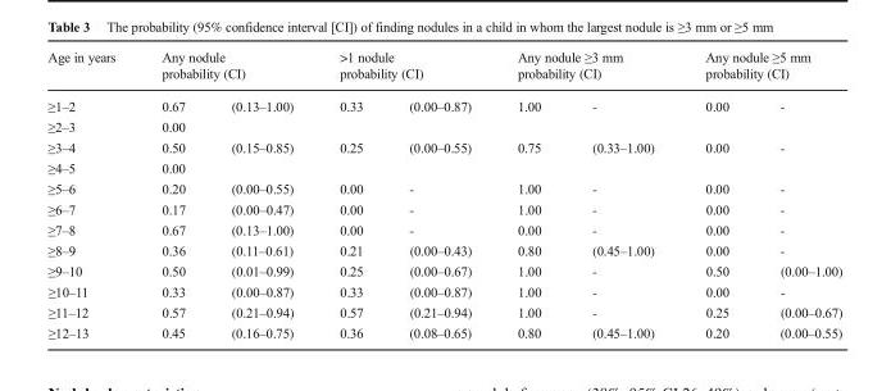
<table><thead><tr><td rowspan="2">Age in years ≥1–2</td><td colspan="2">Any nodule probability (CI)</td><td colspan="2">&gt;1 nodule probability (CI)</td><td colspan="2">Any nodule ≥3 mm probability (CI)</td><td colspan="2">Any nodule ≥5 mm probability (CI)</td></tr><tr><td>0.67</td><td>(0.13–1.00)</td><td>0.33</td><td>(0.00–0.87)</td><td>1.00</td><td>-</td><td>0.00</td><td>-</td></tr></thead><tbody><tr><td>≥2–3</td><td>0.00</td><td></td><td></td><td></td><td></td><td></td><td></td><td></td></tr><tr><td>≥3–4</td><td>0.50</td><td>(0.15–0.85)</td><td>0.25</td><td>(0.00–0.55)</td><td>0.75</td><td>(0.33–1.00)</td><td>0.00</td><td>-</td></tr><tr><td>≥4–5</td><td>0.00</td><td></td><td></td><td></td><td></td><td></td><td></td><td></td></tr><tr><td>≥5–6</td><td>0.20</td><td>(0.00–0.55)</td><td>0.00</td><td>-</td><td>1.00</td><td>-</td><td>0.00</td><td>-</td></tr><tr><td>≥6–7</td><td>0.17</td><td>(0.00–0.47)</td><td>0.00</td><td>-</td><td>1.00</td><td>-</td><td>0.00</td><td>-</td></tr><tr><td>≥7–8</td><td>0.67</td><td>(0.13–1.00)</td><td>0.00</td><td>-</td><td>0.00</td><td>-</td><td>0.00</td><td>-</td></tr><tr><td>≥8–9</td><td>0.36</td><td>(0.11–0.61)</td><td>0.21</td><td>(0.00–0.43)</td><td>0.80</td><td>(0.45–1.00)</td><td>0.00</td><td>-</td></tr><tr><td>≥9–10</td><td>0.50</td><td>(0.01–0.99)</td><td>0.25</td><td>(0.00–0.67)</td><td>1.00</td><td>-</td><td>0.50</td><td>(0.00–1.00)</td></tr><tr><td>≥10–11</td><td>0.33</td><td>(0.00–0.87)</td><td>0.33</td><td>(0.00–0.87)</td><td>1.00</td><td>-</td><td>0.00</td><td>-</td></tr><tr><td>≥11–12</td><td>0.57</td><td>(0.21–0.94)</td><td>0.57</td><td>(0.21–0.94)</td><td>1.00</td><td>-</td><td>0.25</td><td>(0.00–0.67)</td></tr><tr><td>≥12–13</td><td>0.45</td><td>(0.16–0.75)</td><td>0.36</td><td>(0.08–0.65)</td><td>0.80</td><td>(0.45–1.00)</td><td>0.20</td><td>(0.00–0.55)</td></tr></tbody></table>